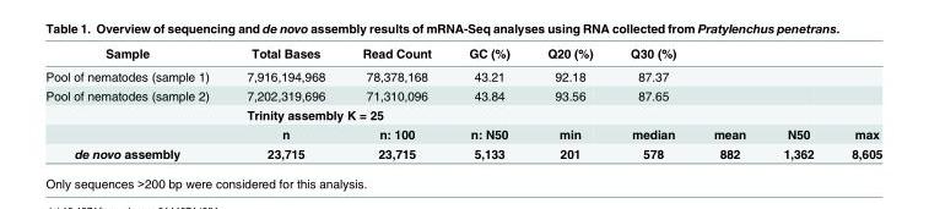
<table><thead><tr><td>Sample</td><td>Total Bases</td><td>Read Count</td><td>GC (%)</td><td>Q20 (%)</td><td>Q30 (%)</td><td></td><td></td><td></td></tr></thead><tbody><tr><td>Pool of nematodes (sample 1)</td><td>7,916,194,968</td><td>78,378,168</td><td>43.21</td><td>92.18</td><td>87.37</td><td></td><td></td><td></td></tr><tr><td rowspan="3">Pool of nematodes (sample 2)</td><td>7,202,319,696</td><td>71,310,096</td><td>43.84</td><td>93.56</td><td>87.65</td><td></td><td></td><td></td></tr><tr><td colspan="2">Trinity assembly K = 25</td><td></td><td></td><td></td><td></td><td></td><td></td></tr><tr><td>n</td><td>n: 100</td><td>n: N50</td><td>min</td><td>median</td><td>mean</td><td>N50</td><td>max</td></tr><tr><td>de novo assembly</td><td>23,715</td><td>23,715</td><td>5,133</td><td>201</td><td>578</td><td>882</td><td>1,362</td><td>8,605</td></tr></tbody></table>